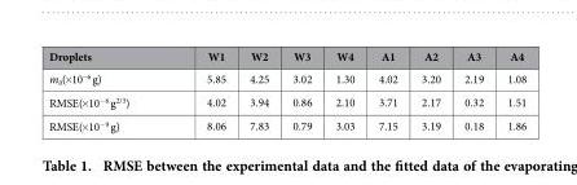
<table><thead><tr><td>Droplets</td><td>W1</td><td>W2</td><td>W3</td><td>W4</td><td>A1</td><td>A2</td><td>A3</td><td>A4</td></tr></thead><tbody><tr><td>m0(×10−6 g)</td><td>5.85</td><td>4.25</td><td>3.02</td><td>1.30</td><td>4.02</td><td>3.20</td><td>2.19</td><td>1.08</td></tr><tr><td>RMSE(×10−6 g2/3)</td><td>4.02</td><td>3.94</td><td>0.86</td><td>2.10</td><td>3.71</td><td>2.17</td><td>0.32</td><td>1.51</td></tr><tr><td>RMSE(×10−9 g)</td><td>8.06</td><td>7.83</td><td>0.79</td><td>3.03</td><td>7.15</td><td>3.19</td><td>0.18</td><td>1.86</td></tr></tbody></table>